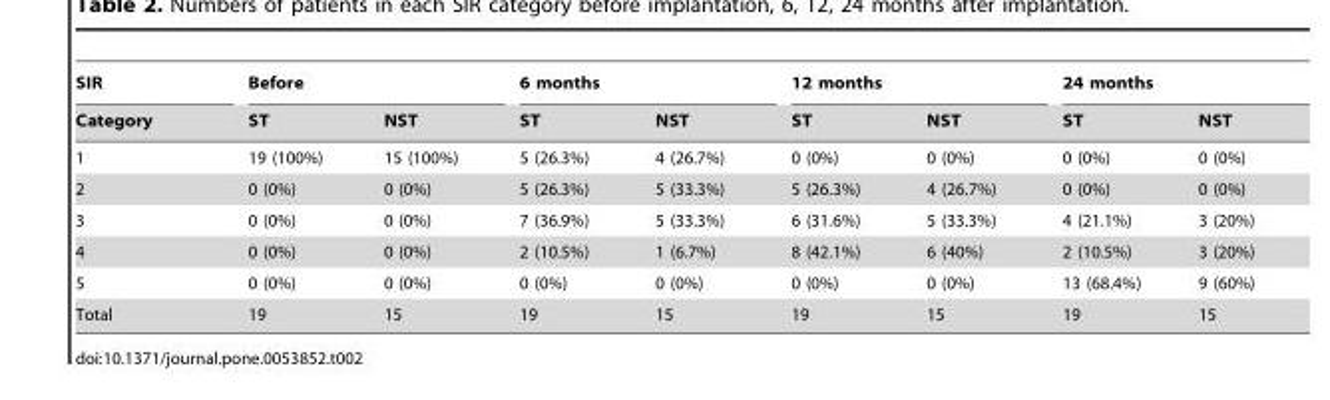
<table><thead><tr><td rowspan="2">SIR Category</td><td colspan="2">Before</td><td colspan="2">6 months</td><td colspan="2">12 months</td><td colspan="2">24 months</td></tr><tr><td>ST</td><td>NST</td><td>ST</td><td>NST</td><td>ST</td><td>NST</td><td>ST</td><td>NST</td></tr></thead><tbody><tr><td>1</td><td>19 (100%)</td><td>15 (100%)</td><td>5 (26.3%)</td><td>4 (26.7%)</td><td>0 (0%)</td><td>0 (0%)</td><td>0 (0%)</td><td>0 (0%)</td></tr><tr><td>2</td><td>0 (0%)</td><td>0 (0%)</td><td>5 (26.3%)</td><td>5 (33.3%)</td><td>5 (26.3%)</td><td>4 (26.7%)</td><td>0 (0%)</td><td>0 (0%)</td></tr><tr><td>3</td><td>0 (0%)</td><td>0 (0%)</td><td>7 (36.9%)</td><td>5 (33.3%)</td><td>6 (31.6%)</td><td>5 (33.3%)</td><td>4 (21.1%)</td><td>3 (20%)</td></tr><tr><td>4</td><td>0 (0%)</td><td>0 (0%)</td><td>2 (10.5%)</td><td>1 (6.7%)</td><td>8 (42.1%)</td><td>6 (40%)</td><td>2 (10.5%)</td><td>3 (20%)</td></tr><tr><td>5</td><td>0 (0%)</td><td>0 (0%)</td><td>0 (0%)</td><td>0 (0%)</td><td>0 (0%)</td><td>0 (0%)</td><td>13 (68.4%)</td><td>9 (60%)</td></tr><tr><td>Total</td><td>19</td><td>15</td><td>19</td><td>15</td><td>19</td><td>15</td><td>19</td><td>15</td></tr></tbody></table>